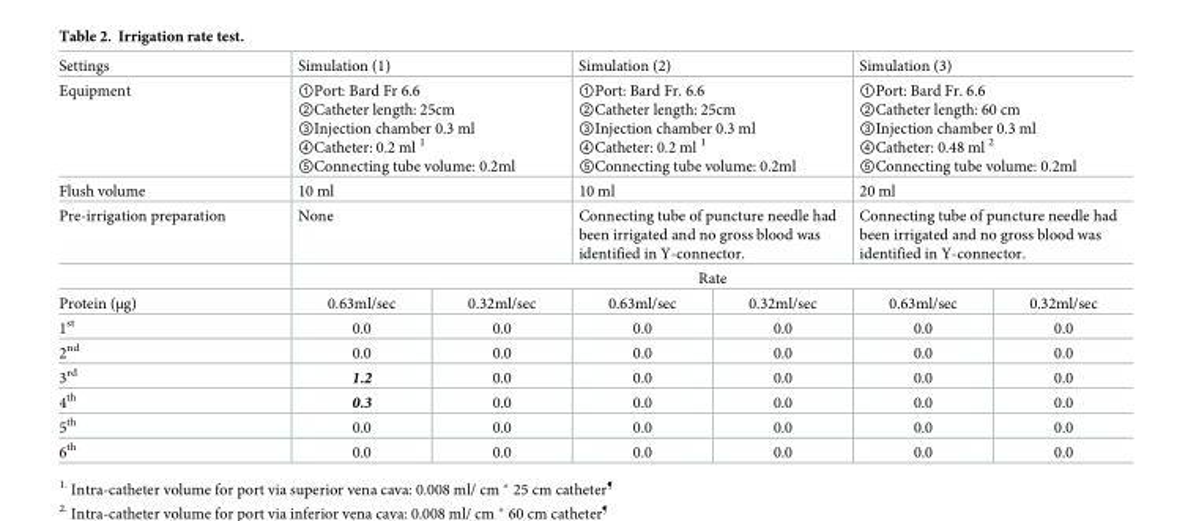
<table><tbody><tr><td>Settings</td><td colspan="2">Simulation (1)</td><td colspan="2">Simulation (2)</td><td colspan="2">Simulation (3)</td></tr><tr><td>Equipment</td><td colspan="2">①Port: Bard Fr 6.6 ②Catheter length: 25cm ③Injection chamber 0.3 ml ④Catheter: 0.2 ml <sup>1</sup> ⑤Connecting tube volume: 0.2ml</td><td colspan="2">①Port: Bard Fr. 6.6 ②Catheter length: 25cm ③Injection chamber 0.3 ml ④Catheter: 0.2 ml <sup>1</sup> ⑤Connecting tube volume: 0.2ml</td><td colspan="2">①Port: Bard Fr. 6.6 ②Catheter length: 60 cm ③Injection chamber 0.3 ml ④Catheter: 0.48 ml <sup>2</sup> ⑤Connecting tube volume: 0.2ml</td></tr><tr><td>Flush volume</td><td colspan="2">10 ml</td><td colspan="2">10 ml</td><td colspan="2">20 ml</td></tr><tr><td rowspan="2">Pre-irrigation preparation</td><td colspan="2">None</td><td colspan="2">Connecting tube of puncture needle had been irrigated and no gross blood was identified in Y-connector.</td><td colspan="2">Connecting tube of puncture needle had been irrigated and no gross blood was identified in Y-connector.</td></tr><tr><td colspan="6">Rate</td></tr><tr><td>Protein (μg)</td><td>0.63ml/sec</td><td>0.32ml/sec</td><td>0.63ml/sec</td><td>0.32ml/sec</td><td>0.63ml/sec</td><td>0.32ml/sec</td></tr><tr><td>1<sup>st</sup></td><td>0.0</td><td>0.0</td><td>0.0</td><td>0.0</td><td>0.0</td><td>0.0</td></tr><tr><td>2<sup>nd</sup></td><td>0.0</td><td>0.0</td><td>0.0</td><td>0.0</td><td>0.0</td><td>0.0</td></tr><tr><td>3<sup>rd</sup></td><td>1.2</td><td>0.0</td><td>0.0</td><td>0.0</td><td>0.0</td><td>0.0</td></tr><tr><td>4<sup>th</sup></td><td>0.3</td><td>0.0</td><td>0.0</td><td>0.0</td><td>0.0</td><td>0.0</td></tr><tr><td>5<sup>th</sup></td><td>0.0</td><td>0.0</td><td>0.0</td><td>0.0</td><td>0.0</td><td>0.0</td></tr><tr><td>6<sup>th</sup></td><td>0.0</td><td>0.0</td><td>0.0</td><td>0.0</td><td>0.0</td><td>0.0</td></tr></tbody></table>